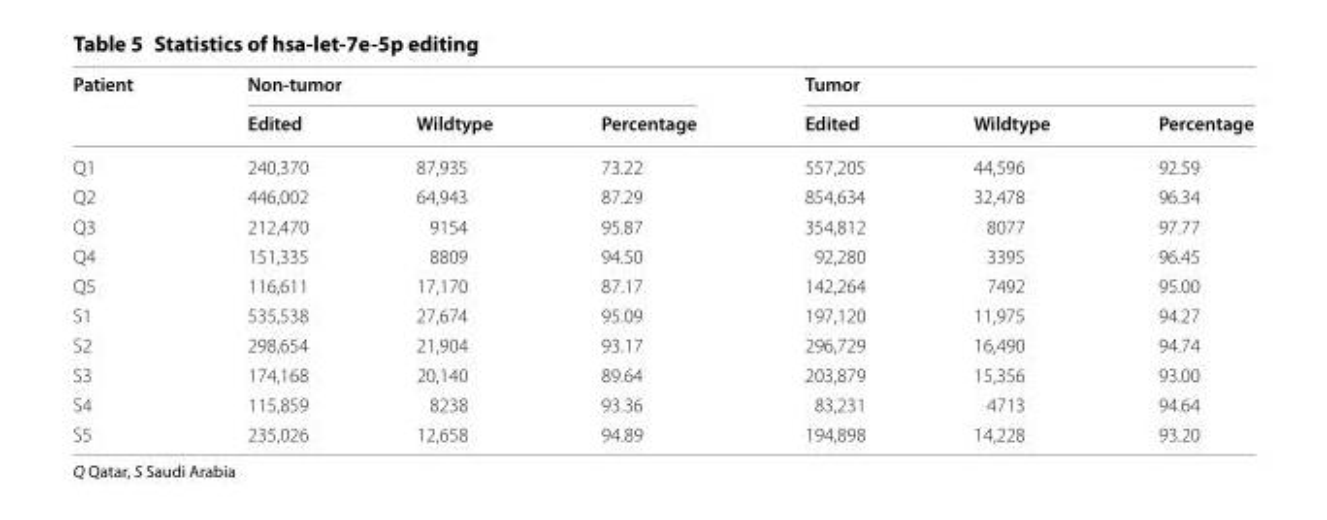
<table><thead><tr><td rowspan="2">Patient</td><td colspan="3">Non‑tumor</td><td colspan="3">Tumor</td></tr><tr><td>Edited</td><td>Wildtype</td><td>Percentage</td><td>Edited</td><td>Wildtype</td><td>Percentage</td></tr></thead><tbody><tr><td>Q1</td><td>240,370</td><td>87,935</td><td>73.22</td><td>557,205</td><td>44,596</td><td>92.59</td></tr><tr><td>Q2</td><td>446,002</td><td>64,943</td><td>87.29</td><td>854,634</td><td>32,478</td><td>96.34</td></tr><tr><td>Q3</td><td>212,470</td><td>9154</td><td>95.87</td><td>354,812</td><td>8077</td><td>97.77</td></tr><tr><td>Q4</td><td>151,335</td><td>8809</td><td>94.50</td><td>92,280</td><td>3395</td><td>96.45</td></tr><tr><td>Q5</td><td>116,611</td><td>17,170</td><td>87.17</td><td>142,264</td><td>7492</td><td>95.00</td></tr><tr><td>S1</td><td>535,538</td><td>27,674</td><td>95.09</td><td>197,120</td><td>11,975</td><td>94.27</td></tr><tr><td>S2</td><td>298,654</td><td>21,904</td><td>93.17</td><td>296,729</td><td>16,490</td><td>94.74</td></tr><tr><td>S3</td><td>174,168</td><td>20,140</td><td>89.64</td><td>203,879</td><td>15,356</td><td>93.00</td></tr><tr><td>S4</td><td>115,859</td><td>8238</td><td>93.36</td><td>83,231</td><td>4713</td><td>94.64</td></tr><tr><td>S5</td><td>235,026</td><td>12,658</td><td>94.89</td><td>194,898</td><td>14,228</td><td>93.20</td></tr></tbody></table>